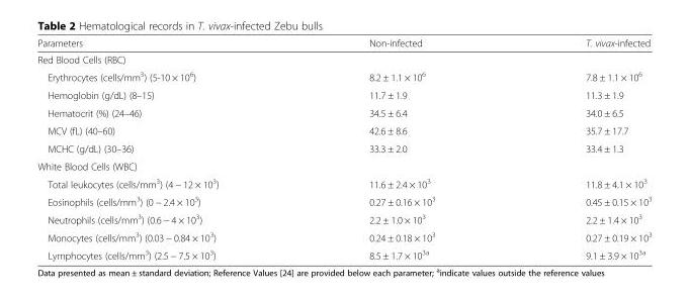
<table><thead><tr><td>Parameters</td><td>Non-infected</td><td>T. vivax-infected</td></tr></thead><tbody><tr><td colspan="3">Red Blood Cells (RBC)</td></tr><tr><td>Erythrocytes (cells/mm<sup>3</sup>) (5-10 × 10<sup>6</sup>)</td><td>8.2 ± 1.1 × 10<sup>6</sup></td><td>7.8 ± 1.1 × 10<sup>6</sup></td></tr><tr><td>Hemoglobin (g/dL) (8–15)</td><td>11.7 ± 1.9</td><td>11.3 ± 1.9</td></tr><tr><td>Hematocrit (%) (24–46)</td><td>34.5 ± 6.4</td><td>34.0 ± 6.5</td></tr><tr><td>MCV (fL) (40–60)</td><td>42.6 ± 8.6</td><td>35.7 ± 17.7</td></tr><tr><td>MCHC (g/dL) (30–36)</td><td>33.3 ± 2.0</td><td>33.4 ± 1.3</td></tr><tr><td colspan="3">White Blood Cells (WBC)</td></tr><tr><td>Total leukocytes (cells/mm<sup>3</sup>) (4 − 12 × 10<sup>3</sup>)</td><td>11.6 ± 2.4 × 10<sup>3</sup></td><td>11.8 ± 4.1 × 10<sup>3</sup></td></tr><tr><td>Eosinophils (cells/mm<sup>3</sup>) (0 − 2.4 × 10<sup>3</sup>)</td><td>0.27 ± 0.16 × 10<sup>3</sup></td><td>0.45 ± 0.15 × 10<sup>3</sup></td></tr><tr><td>Neutrophils (cells/mm<sup>3</sup>) (0.6 − 4 × 10<sup>3</sup>)</td><td>2.2 ± 1.0 × 10<sup>3</sup></td><td>2.2 ± 1.4 × 10<sup>3</sup></td></tr><tr><td>Monocytes (cells/mm<sup>3</sup>) (0.03 − 0.84 × 10<sup>3</sup>)</td><td>0.24 ± 0.18 × 10<sup>3</sup></td><td>0.27 ± 0.19 × 10<sup>3</sup></td></tr><tr><td>Lymphocytes (cells/mm<sup>3</sup>) (2.5 − 7.5 × 10<sup>3</sup>)</td><td>8.5 ± 1.7 × 10<sup>3a</sup></td><td>9.1 ± 3.9 × 10<sup>3a</sup></td></tr></tbody></table>